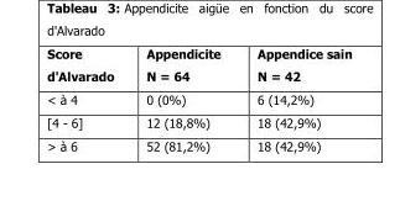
<table><thead><tr><td>Score d&#x27;Alvarado</td><td>Appendicite N = 64</td><td>Appendice sain N = 42</td></tr></thead><tbody><tr><td>&lt; à 4</td><td>0 (0%)</td><td>6 (14,2%)</td></tr><tr><td>[4 - 6]</td><td>12 (18,8%)</td><td>18 (42,9%)</td></tr><tr><td>&gt; à 6</td><td>52 (81,2%)</td><td>18 (42,9%)</td></tr></tbody></table>